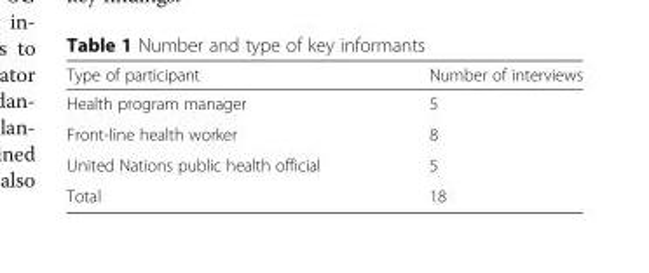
<table><thead><tr><td>Type of participant</td><td>Number of interviews</td></tr></thead><tbody><tr><td>Health program manager</td><td>5</td></tr><tr><td>Front-line health worker</td><td>8</td></tr><tr><td>United Nations public health official</td><td>5</td></tr><tr><td>Total</td><td>18</td></tr></tbody></table>